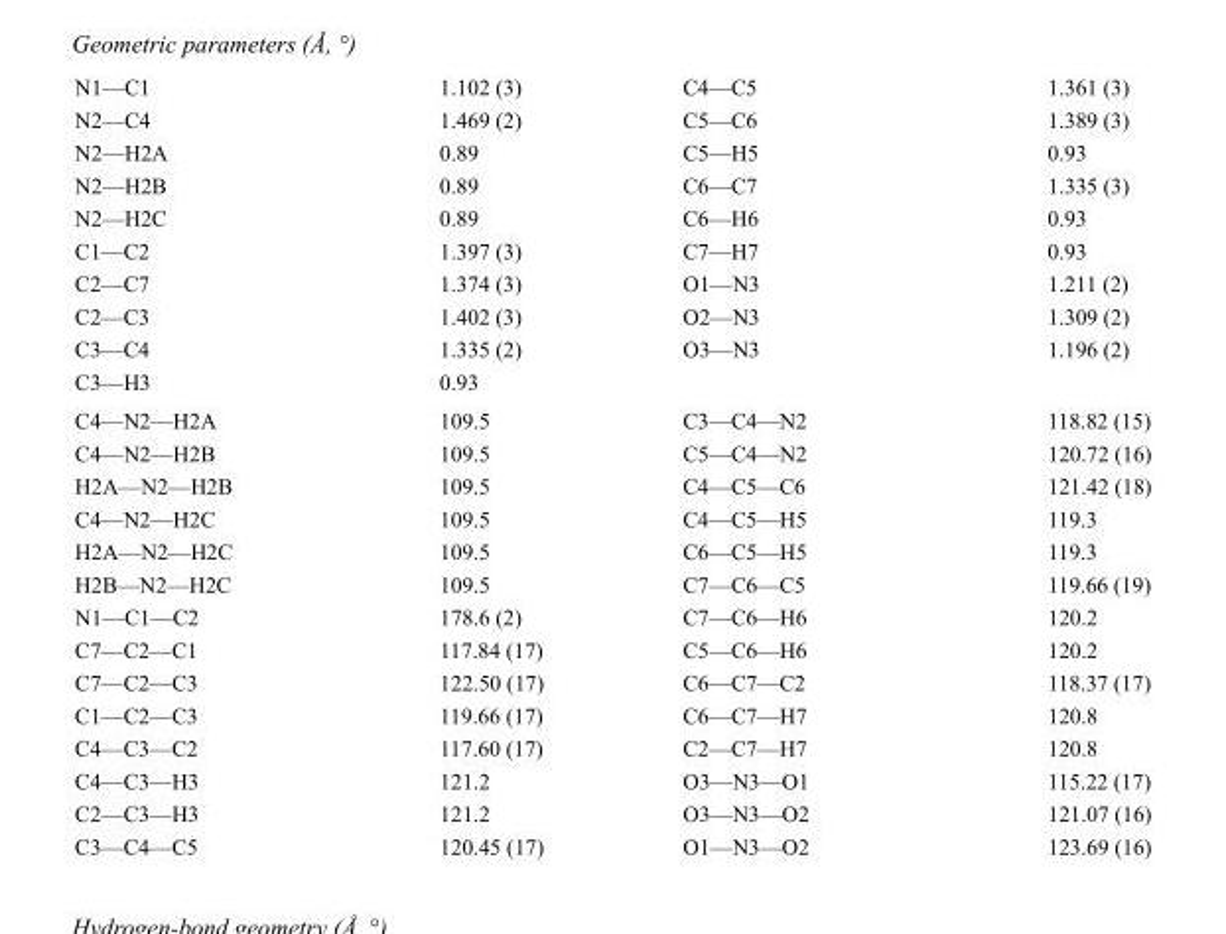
<table><tbody><tr><td>N1—C1</td><td>1.102 (3)</td><td>C4—C5</td><td>1.361 (3)</td></tr><tr><td>N2—C4</td><td>1.469 (2)</td><td>C5—C6</td><td>1.389 (3)</td></tr><tr><td>N2—H2A</td><td>0.89</td><td>C5—H5</td><td>0.93</td></tr><tr><td>N2—H2B</td><td>0.89</td><td>C6—C7</td><td>1.335 (3)</td></tr><tr><td>N2—H2C</td><td>0.89</td><td>C6—H6</td><td>0.93</td></tr><tr><td>C1—C2</td><td>1.397 (3)</td><td>C7—H7</td><td>0.93</td></tr><tr><td>C2—C7</td><td>1.374 (3)</td><td>O1—N3</td><td>1.211 (2)</td></tr><tr><td>C2—C3</td><td>1.402 (3)</td><td>O2—N3</td><td>1.309 (2)</td></tr><tr><td>C3—C4</td><td>1.335 (2)</td><td>O3—N3</td><td>1.196 (2)</td></tr><tr><td>C3—H3</td><td>0.93</td><td></td><td></td></tr><tr><td>C4—N2—H2A</td><td>109.5</td><td>C3—C4—N2</td><td>118.82 (15)</td></tr><tr><td>C4—N2—H2B</td><td>109.5</td><td>C5—C4—N2</td><td>120.72 (16)</td></tr><tr><td>H2A—N2—H2B</td><td>109.5</td><td>C4—C5—C6</td><td>121.42 (18)</td></tr><tr><td>C4—N2—H2C</td><td>109.5</td><td>C4—C5—H5</td><td>119.3</td></tr><tr><td>H2A—N2—H2C</td><td>109.5</td><td>C6—C5—H5</td><td>119.3</td></tr><tr><td>H2B—N2—H2C</td><td>109.5</td><td>C7—C6—C5</td><td>119.66 (19)</td></tr><tr><td>N1—C1—C2</td><td>178.6 (2)</td><td>C7—C6—H6</td><td>120.2</td></tr><tr><td>C7—C2—C1</td><td>117.84 (17)</td><td>C5—C6—H6</td><td>120.2</td></tr><tr><td>C7—C2—C3</td><td>122.50 (17)</td><td>C6—C7—C2</td><td>118.37 (17)</td></tr><tr><td>C1—C2—C3</td><td>119.66 (17)</td><td>C6—C7—H7</td><td>120.8</td></tr><tr><td>C4—C3—C2</td><td>117.60 (17)</td><td>C2—C7—H7</td><td>120.8</td></tr><tr><td>C4—C3—H3</td><td>121.2</td><td>O3—N3—O1</td><td>115.22 (17)</td></tr><tr><td>C2—C3—H3</td><td>121.2</td><td>O3—N3—O2</td><td>121.07 (16)</td></tr><tr><td>C3—C4—C5</td><td>120.45 (17)</td><td>O1—N3—O2</td><td>123.69 (16)</td></tr></tbody></table>